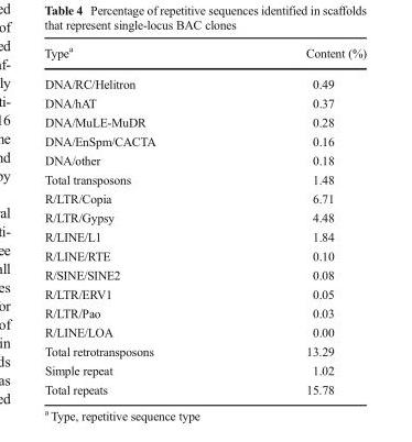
<table><thead><tr><td>Type<sup>a</sup></td><td>Content (%)</td></tr></thead><tbody><tr><td>DNA/RC/Helitron</td><td>0.49</td></tr><tr><td>DNA/hAT</td><td>0.37</td></tr><tr><td>DNA/MuLE-MuDR</td><td>0.28</td></tr><tr><td>DNA/EnSpm/CACTA</td><td>0.16</td></tr><tr><td>DNA/other</td><td>0.18</td></tr><tr><td>Total transposons</td><td>1.48</td></tr><tr><td>R/LTR/Copia</td><td>6.71</td></tr><tr><td>R/LTR/Gypsy</td><td>4.48</td></tr><tr><td>R/LINE/L1</td><td>1.84</td></tr><tr><td>R/LINE/RTE</td><td>0.10</td></tr><tr><td>R/SINE/SINE2</td><td>0.08</td></tr><tr><td>R/LTR/ERV1</td><td>0.05</td></tr><tr><td>R/LTR/Pao</td><td>0.03</td></tr><tr><td>R/LINE/LOA</td><td>0.00</td></tr><tr><td>Total retrotransposons</td><td>13.29</td></tr><tr><td>Simple repeat</td><td>1.02</td></tr><tr><td>Total repeats</td><td>15.78</td></tr></tbody></table>